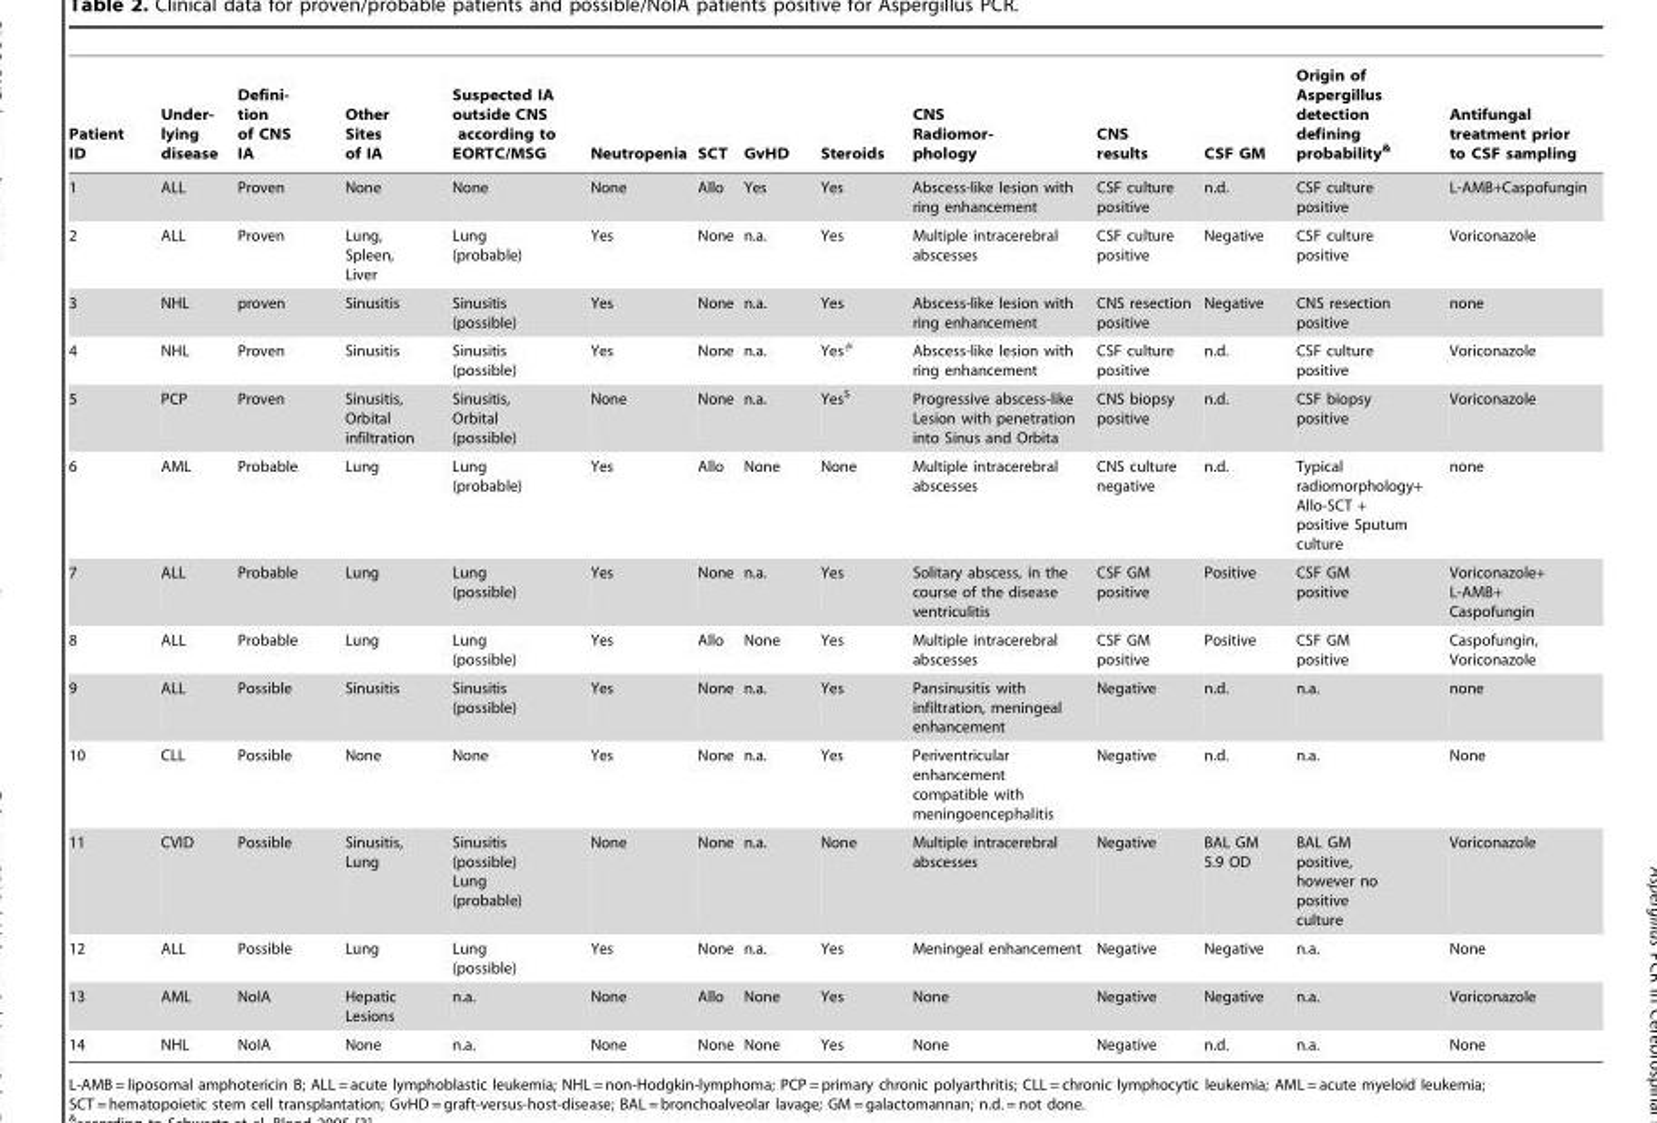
<table><thead><tr><td>Patient ID</td><td>Under- lying disease</td><td>Defini- tion of CNS IA</td><td>Other Sites of IA</td><td>Suspected IA outside CNS according to EORTC/MSG</td><td>Neutropenia</td><td>SCT</td><td>GvHD</td><td>Steroids</td><td>CNS Radiomor- phology</td><td>CNS results</td><td>CSF GM</td><td>Origin of Aspergillus detection defining probability&amp;</td><td>Antifungal treatment prior to CSF sampling</td></tr></thead><tbody><tr><td>1</td><td>ALL</td><td>Proven</td><td>None</td><td>None</td><td>None</td><td>Allo</td><td>Yes</td><td>Yes</td><td>Abscess-like lesion with ring enhancement</td><td>CSF culture positive</td><td>n.d.</td><td>CSF culture positive</td><td>L-AMB+Caspofungin</td></tr><tr><td>2</td><td>ALL</td><td>Proven</td><td>Lung, Spleen, Liver</td><td>Lung (probable)</td><td>Yes</td><td>None</td><td>n.a.</td><td>Yes</td><td>Multiple intracerebral abscesses</td><td>CSF culture positive</td><td>Negative</td><td>CSF culture positive</td><td>Voriconazole</td></tr><tr><td>3</td><td>NHL</td><td>proven</td><td>Sinusitis</td><td>Sinusitis (possible)</td><td>Yes</td><td>None</td><td>n.a.</td><td>Yes</td><td>Abscess-like lesion with ring enhancement</td><td>CNS resection positive</td><td>Negative</td><td>CNS resection positive</td><td>none</td></tr><tr><td>4</td><td>NHL</td><td>Proven</td><td>Sinusitis</td><td>Sinusitis (possible)</td><td>Yes</td><td>None</td><td>n.a.</td><td>Yes#</td><td>Abscess-like lesion with ring enhancement</td><td>CSF culture positive</td><td>n.d.</td><td>CSF culture positive</td><td>Voriconazole</td></tr><tr><td>5</td><td>PCP</td><td>Proven</td><td>Sinusitis, Orbital infiltration</td><td>Sinusitis, Orbital (possible)</td><td>None</td><td>None</td><td>n.a.</td><td>Yes$</td><td>Progressive abscess-like Lesion with penetration into Sinus and Orbita</td><td>CNS biopsy positive</td><td>n.d.</td><td>CSF biopsy positive</td><td>Voriconazole</td></tr><tr><td>6</td><td>AML</td><td>Probable</td><td>Lung</td><td>Lung (probable)</td><td>Yes</td><td>Allo</td><td>None</td><td>None</td><td>Multiple intracerebral abscesses</td><td>CNS culture negative</td><td>n.d.</td><td>Typical radiomorphology+ Allo-SCT + positive Sputum culture</td><td>none</td></tr><tr><td>7</td><td>ALL</td><td>Probable</td><td>Lung</td><td>Lung (possible)</td><td>Yes</td><td>None</td><td>n.a.</td><td>Yes</td><td>Solitary abscess, in the course of the disease ventriculitis</td><td>CSF GM positive</td><td>Positive</td><td>CSF GM positive</td><td>Voriconazole+ L-AMB+ Caspofungin</td></tr><tr><td>8</td><td>ALL</td><td>Probable</td><td>Lung</td><td>Lung (possible)</td><td>Yes</td><td>Allo</td><td>None</td><td>Yes</td><td>Multiple intracerebral abscesses</td><td>CSF GM positive</td><td>Positive</td><td>CSF GM positive</td><td>Caspofungin, Voriconazole</td></tr><tr><td>9</td><td>ALL</td><td>Possible</td><td>Sinusitis</td><td>Sinusitis (possible)</td><td>Yes</td><td>None</td><td>n.a.</td><td>Yes</td><td>Pansinusitis with infiltration, meningeal enhancement</td><td>Negative</td><td>n.d.</td><td>n.a.</td><td>none</td></tr><tr><td>10</td><td>CLL</td><td>Possible</td><td>None</td><td>None</td><td>Yes</td><td>None</td><td>n.a.</td><td>Yes</td><td>Periventricular enhancement compatible with meningoencephalitis</td><td>Negative</td><td>n.d.</td><td>n.a.</td><td>None</td></tr><tr><td>11</td><td>CVID</td><td>Possible</td><td>Sinusitis, Lung</td><td>Sinusitis (possible) Lung (probable)</td><td>None</td><td>None</td><td>n.a.</td><td>None</td><td>Multiple intracerebral abscesses</td><td>Negative</td><td>BAL GM 5.9 OD</td><td>BAL GM positive, however no positive culture</td><td>Voriconazole</td></tr><tr><td>12</td><td>ALL</td><td>Possible</td><td>Lung</td><td>Lung (possible)</td><td>Yes</td><td>None</td><td>n.a.</td><td>Yes</td><td>Meningeal enhancement</td><td>Negative</td><td>Negative</td><td>n.a.</td><td>None</td></tr><tr><td>13</td><td>AML</td><td>NoIA</td><td>Hepatic Lesions</td><td>n.a.</td><td>None</td><td>Allo</td><td>None</td><td>Yes</td><td>None</td><td>Negative</td><td>Negative</td><td>n.a.</td><td>Voriconazole</td></tr><tr><td>14</td><td>NHL</td><td>NoIA</td><td>None</td><td>n.a.</td><td>None</td><td>None</td><td>None</td><td>Yes</td><td>None</td><td>Negative</td><td>n.d.</td><td>n.a.</td><td>None</td></tr></tbody></table>